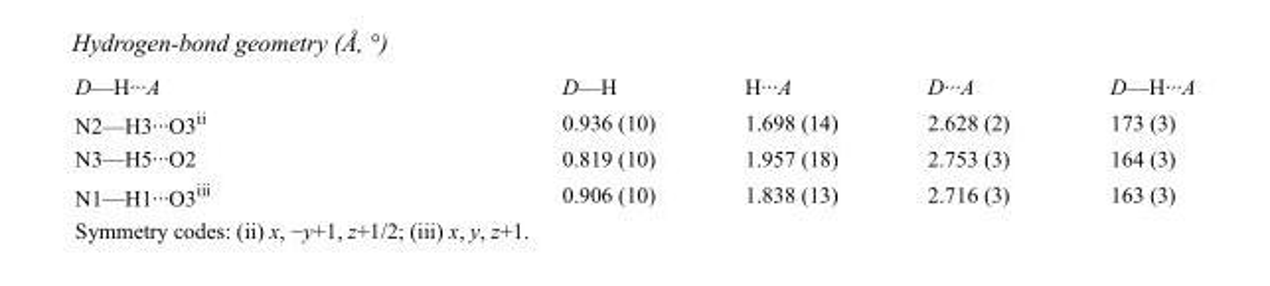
<table><tbody><tr><td>D—H···A</td><td>D—H</td><td>H···A</td><td>D···A</td><td>D—H···A</td></tr><tr><td>N2—H3···O3<sup>ii</sup></td><td>0.936 (10)</td><td>1.698 (14)</td><td>2.628 (2)</td><td>173 (3)</td></tr><tr><td>N3—H5···O2</td><td>0.819 (10)</td><td>1.957 (18)</td><td>2.753 (3)</td><td>164 (3)</td></tr><tr><td>N1—H1···O3<sup>iii</sup></td><td>0.906 (10)</td><td>1.838 (13)</td><td>2.716 (3)</td><td>163 (3)</td></tr></tbody></table>